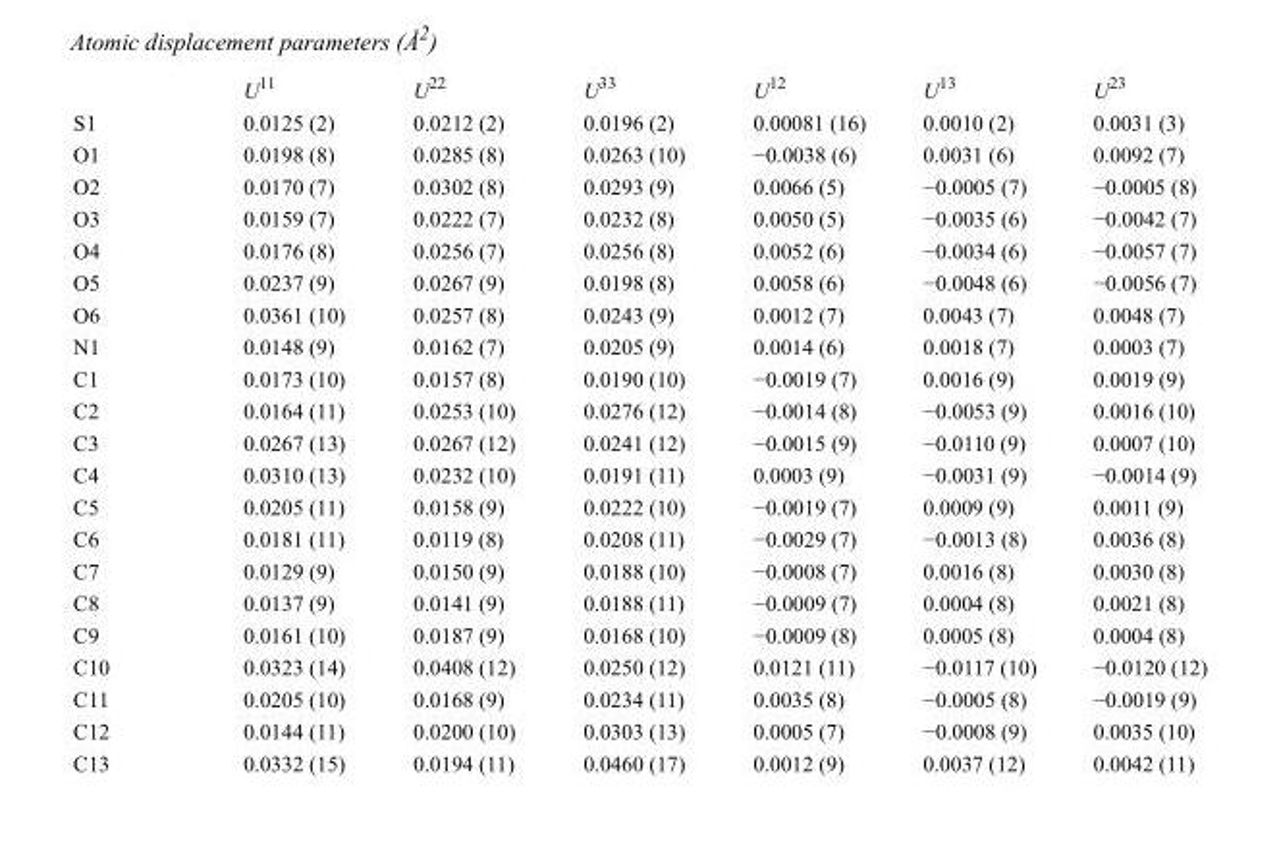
<table><thead><tr><td></td><td>U<sup>11</sup></td><td>U<sup>22</sup></td><td>U<sup>33</sup></td><td>U<sup>12</sup></td><td>U<sup>13</sup></td><td>U<sup>23</sup></td></tr></thead><tbody><tr><td>S1</td><td>0.0125 (2)</td><td>0.0212 (2)</td><td>0.0196 (2)</td><td>0.00081 (16)</td><td>0.0010 (2)</td><td>0.0031 (3)</td></tr><tr><td>O1</td><td>0.0198 (8)</td><td>0.0285 (8)</td><td>0.0263 (10)</td><td>−0.0038 (6)</td><td>0.0031 (6)</td><td>0.0092 (7)</td></tr><tr><td>O2</td><td>0.0170 (7)</td><td>0.0302 (8)</td><td>0.0293 (9)</td><td>0.0066 (5)</td><td>−0.0005 (7)</td><td>−0.0005 (8)</td></tr><tr><td>O3</td><td>0.0159 (7)</td><td>0.0222 (7)</td><td>0.0232 (8)</td><td>0.0050 (5)</td><td>−0.0035 (6)</td><td>−0.0042 (7)</td></tr><tr><td>O4</td><td>0.0176 (8)</td><td>0.0256 (7)</td><td>0.0256 (8)</td><td>0.0052 (6)</td><td>−0.0034 (6)</td><td>−0.0057 (7)</td></tr><tr><td>O5</td><td>0.0237 (9)</td><td>0.0267 (9)</td><td>0.0198 (8)</td><td>0.0058 (6)</td><td>−0.0048 (6)</td><td>−0.0056 (7)</td></tr><tr><td>O6</td><td>0.0361 (10)</td><td>0.0257 (8)</td><td>0.0243 (9)</td><td>0.0012 (7)</td><td>0.0043 (7)</td><td>0.0048 (7)</td></tr><tr><td>N1</td><td>0.0148 (9)</td><td>0.0162 (7)</td><td>0.0205 (9)</td><td>0.0014 (6)</td><td>0.0018 (7)</td><td>0.0003 (7)</td></tr><tr><td>C1</td><td>0.0173 (10)</td><td>0.0157 (8)</td><td>0.0190 (10)</td><td>−0.0019 (7)</td><td>0.0016 (9)</td><td>0.0019 (9)</td></tr><tr><td>C2</td><td>0.0164 (11)</td><td>0.0253 (10)</td><td>0.0276 (12)</td><td>−0.0014 (8)</td><td>−0.0053 (9)</td><td>0.0016 (10)</td></tr><tr><td>C3</td><td>0.0267 (13)</td><td>0.0267 (12)</td><td>0.0241 (12)</td><td>−0.0015 (9)</td><td>−0.0110 (9)</td><td>0.0007 (10)</td></tr><tr><td>C4</td><td>0.0310 (13)</td><td>0.0232 (10)</td><td>0.0191 (11)</td><td>0.0003 (9)</td><td>−0.0031 (9)</td><td>−0.0014 (9)</td></tr><tr><td>C5</td><td>0.0205 (11)</td><td>0.0158 (9)</td><td>0.0222 (10)</td><td>−0.0019 (7)</td><td>0.0009 (9)</td><td>0.0011 (9)</td></tr><tr><td>C6</td><td>0.0181 (11)</td><td>0.0119 (8)</td><td>0.0208 (11)</td><td>−0.0029 (7)</td><td>−0.0013 (8)</td><td>0.0036 (8)</td></tr><tr><td>C7</td><td>0.0129 (9)</td><td>0.0150 (9)</td><td>0.0188 (10)</td><td>−0.0008 (7)</td><td>0.0016 (8)</td><td>0.0030 (8)</td></tr><tr><td>C8</td><td>0.0137 (9)</td><td>0.0141 (9)</td><td>0.0188 (11)</td><td>−0.0009 (7)</td><td>0.0004 (8)</td><td>0.0021 (8)</td></tr><tr><td>C9</td><td>0.0161 (10)</td><td>0.0187 (9)</td><td>0.0168 (10)</td><td>−0.0009 (8)</td><td>0.0005 (8)</td><td>0.0004 (8)</td></tr><tr><td>C10</td><td>0.0323 (14)</td><td>0.0408 (12)</td><td>0.0250 (12)</td><td>0.0121 (11)</td><td>−0.0117 (10)</td><td>−0.0120 (12)</td></tr><tr><td>C11</td><td>0.0205 (10)</td><td>0.0168 (9)</td><td>0.0234 (11)</td><td>0.0035 (8)</td><td>−0.0005 (8)</td><td>−0.0019 (9)</td></tr><tr><td>C12</td><td>0.0144 (11)</td><td>0.0200 (10)</td><td>0.0303 (13)</td><td>0.0005 (7)</td><td>−0.0008 (9)</td><td>0.0035 (10)</td></tr><tr><td>C13</td><td>0.0332 (15)</td><td>0.0194 (11)</td><td>0.0460 (17)</td><td>0.0012 (9)</td><td>0.0037 (12)</td><td>0.0042 (11)</td></tr></tbody></table>